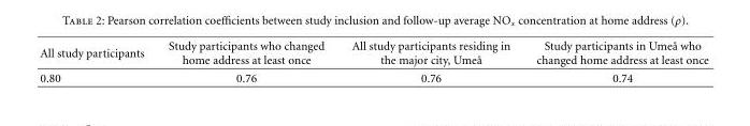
<table><thead><tr><td>All study participants</td><td>Study participants who changed home address at least once</td><td>All study participants residing in the major city, Ume˚a</td><td>Study participants in Ume˚a who changed home address at least once</td></tr></thead><tbody><tr><td>0.80</td><td>0.76</td><td>0.76</td><td>0.74</td></tr></tbody></table>